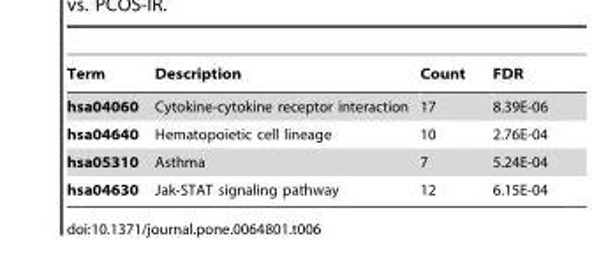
<table><thead><tr><td>Term</td><td>Description</td><td>Count</td><td>FDR</td></tr></thead><tbody><tr><td>hsa04060</td><td>Cytokine-cytokine receptor interaction</td><td>17</td><td>8.39E-06</td></tr><tr><td>hsa04640</td><td>Hematopoietic cell lineage</td><td>10</td><td>2.76E-04</td></tr><tr><td>hsa05310</td><td>Asthma</td><td>7</td><td>5.24E-04</td></tr><tr><td>hsa04630</td><td>Jak-STAT signaling pathway</td><td>12</td><td>6.15E-04</td></tr></tbody></table>